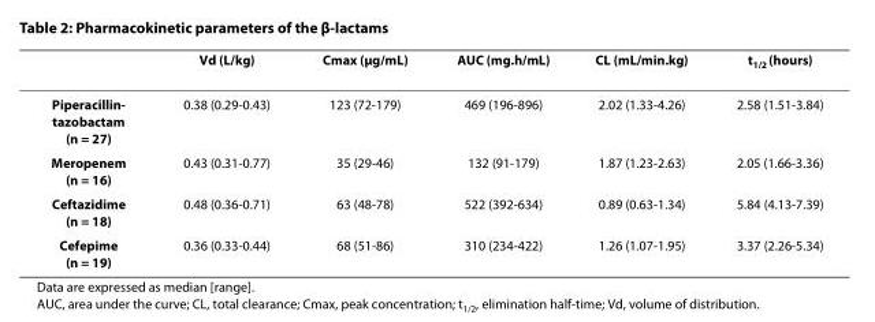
<table><thead><tr><td></td><td>Vd (L/kg)</td><td>Cmax (μg/mL)</td><td>AUC (mg.h/mL)</td><td>CL (mL/min.kg)</td><td>t<sub>1/2</sub> (hours)</td></tr></thead><tbody><tr><td>Piperacillin- tazobactam (n = 27)</td><td>0.38 (0.29-0.43)</td><td>123 (72-179)</td><td>469 (196-896)</td><td>2.02 (1.33-4.26)</td><td>2.58 (1.51-3.84)</td></tr><tr><td>Meropenem (n = 16)</td><td>0.43 (0.31-0.77)</td><td>35 (29-46)</td><td>132 (91-179)</td><td>1.87 (1.23-2.63)</td><td>2.05 (1.66-3.36)</td></tr><tr><td>Ceftazidime (n = 18)</td><td>0.48 (0.36-0.71)</td><td>63 (48-78)</td><td>522 (392-634)</td><td>0.89 (0.63-1.34)</td><td>5.84 (4.13-7.39)</td></tr><tr><td>Cefepime (n = 19)</td><td>0.36 (0.33-0.44)</td><td>68 (51-86)</td><td>310 (234-422)</td><td>1.26 (1.07-1.95)</td><td>3.37 (2.26-5.34)</td></tr></tbody></table>